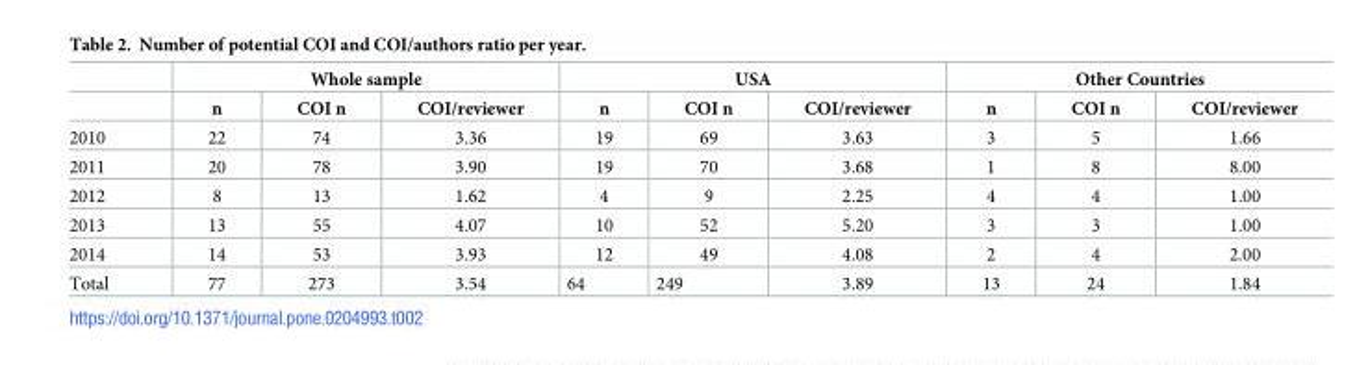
<table><thead><tr><td rowspan="2"></td><td colspan="3">Whole sample</td><td colspan="3">USA</td><td colspan="3">Other Countries</td></tr><tr><td>n</td><td>COI n</td><td>COI/reviewer</td><td>n</td><td>COI n</td><td>COI/reviewer</td><td>n</td><td>COI n</td><td>COI/reviewer</td></tr></thead><tbody><tr><td>2010</td><td>22</td><td>74</td><td>3.36</td><td>19</td><td>69</td><td>3.63</td><td>3</td><td>5</td><td>1.66</td></tr><tr><td>2011</td><td>20</td><td>78</td><td>3.90</td><td>19</td><td>70</td><td>3.68</td><td>1</td><td>8</td><td>8.00</td></tr><tr><td>2012</td><td>8</td><td>13</td><td>1.62</td><td>4</td><td>9</td><td>2.25</td><td>4</td><td>4</td><td>1.00</td></tr><tr><td>2013</td><td>13</td><td>55</td><td>4.07</td><td>10</td><td>52</td><td>5.20</td><td>3</td><td>3</td><td>1.00</td></tr><tr><td>2014</td><td>14</td><td>53</td><td>3.93</td><td>12</td><td>49</td><td>4.08</td><td>2</td><td>4</td><td>2.00</td></tr><tr><td>Total</td><td>77</td><td>273</td><td>3.54</td><td>64</td><td>249</td><td>3.89</td><td>13</td><td>24</td><td>1.84</td></tr></tbody></table>